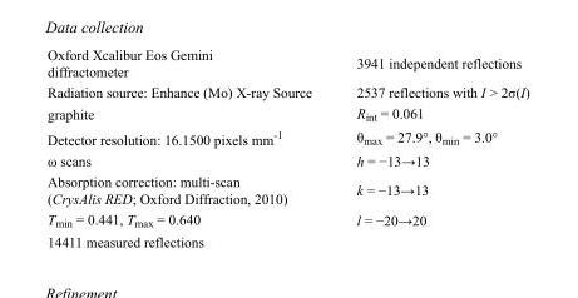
<table><tbody><tr><td>Oxford Xcalibur Eos Gemini diffractometer</td><td>3941 independent reflections</td></tr><tr><td>Radiation source: Enhance (Mo) X-ray Source</td><td>2537 reflections with I &gt; 2σ(I)</td></tr><tr><td>graphite</td><td>R<sub>int</sub> = 0.061</td></tr><tr><td>Detector resolution: 16.1500 pixels mm<sup>-1</sup></td><td>θ<sub>max</sub> = 27.9°, θ<sub>min</sub> = 3.0°</td></tr><tr><td>ω scans</td><td>h = −13→13</td></tr><tr><td>Absorption correction: multi-scan (CrysAlis RED; Oxford Diffraction, 2010)</td><td>k = −13→13</td></tr><tr><td>T<sub>min</sub> = 0.441, T<sub>max</sub> = 0.640</td><td>l = −20→20</td></tr><tr><td>14411 measured reflections</td><td></td></tr></tbody></table>